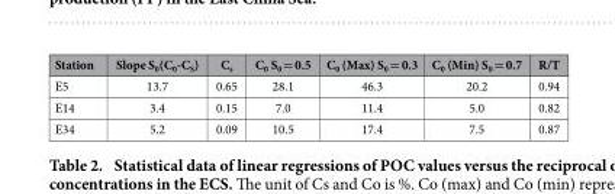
<table><thead><tr><td>Station</td><td>Slope S<sub>0</sub>(C<sub>0</sub>-C<sub>S</sub>)</td><td>C<sub>s</sub></td><td>C<sub>0</sub> S<sub>0</sub> = 0.5</td><td>C<sub>0</sub> (Max) S<sub>0</sub> = 0.3</td><td>C<sub>0</sub> (Min) S<sub>0</sub> = 0.7</td><td>R/T</td></tr></thead><tbody><tr><td>E5</td><td>13.7</td><td>0.65</td><td>28.1</td><td>46.3</td><td>20.2</td><td>0.94</td></tr><tr><td>E14</td><td>3.4</td><td>0.15</td><td>7.0</td><td>11.4</td><td>5.0</td><td>0.82</td></tr><tr><td>E34</td><td>5.2</td><td>0.09</td><td>10.5</td><td>17.4</td><td>7.5</td><td>0.87</td></tr></tbody></table>